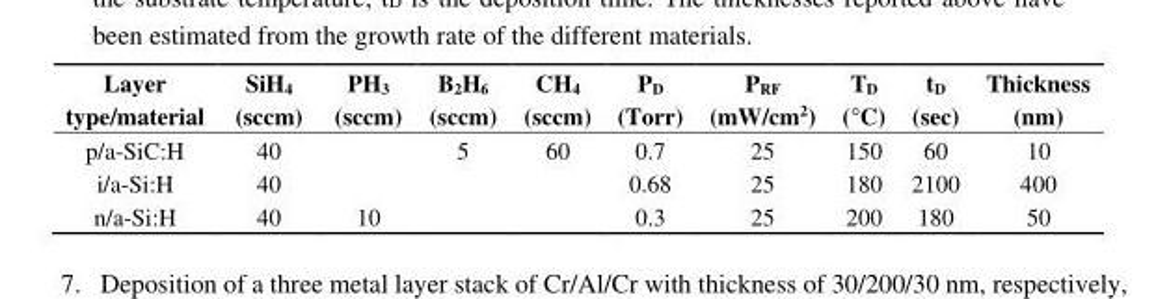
<table><thead><tr><td>Layer type/material</td><td>SiH<sub>4</sub> (sccm)</td><td>PH<sub>3</sub> (sccm)</td><td>B<sub>2</sub>H<sub>6</sub> (sccm)</td><td>CH<sub>4</sub> (sccm)</td><td>P<sub>D</sub> (Torr)</td><td>P<sub>RF</sub> (mW/cm<sup>2</sup>)</td><td>T<sub>D</sub> (°C)</td><td>t<sub>D</sub> (sec)</td><td>Thickness (nm)</td></tr></thead><tbody><tr><td>p/a-SiC:H</td><td>40</td><td></td><td>5</td><td>60</td><td>0.7</td><td>25</td><td>150</td><td>60</td><td>10</td></tr><tr><td>i/a-Si:H</td><td>40</td><td></td><td></td><td></td><td>0.68</td><td>25</td><td>180</td><td>2100</td><td>400</td></tr><tr><td>n/a-Si:H</td><td>40</td><td>10</td><td></td><td></td><td>0.3</td><td>25</td><td>200</td><td>180</td><td>50</td></tr></tbody></table>